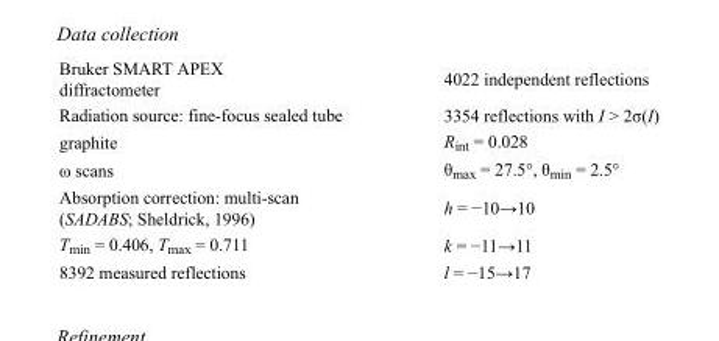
<table><tbody><tr><td>Bruker SMART APEX diffractometer</td><td>4022 independent reflections</td></tr><tr><td>Radiation source: fine-focus sealed tube</td><td>3354 reflections with I &gt; 2σ(I)</td></tr><tr><td>graphite</td><td>R<sub>int</sub> = 0.028</td></tr><tr><td>ω scans</td><td>θ<sub>max</sub> = 27.5°, θ<sub>min</sub> = 2.5°</td></tr><tr><td>Absorption correction: multi-scan (SADABS; Sheldrick, 1996)</td><td>h = −10→10</td></tr><tr><td>T<sub>min</sub> = 0.406, T<sub>max</sub> = 0.711</td><td>k = −11→11</td></tr><tr><td>8392 measured reflections</td><td>l = −15→17</td></tr></tbody></table>